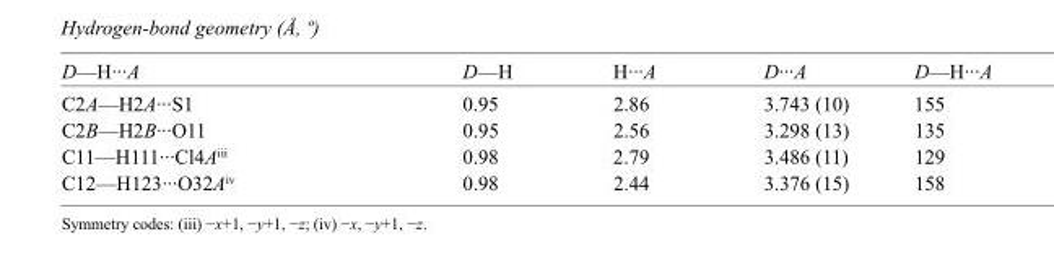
<table><tbody><tr><td>D—H···A</td><td>D—H</td><td>H···A</td><td>D···A</td><td>D—H···A</td></tr><tr><td>C2A—H2A···S1</td><td>0.95</td><td>2.86</td><td>3.743 (10)</td><td>155</td></tr><tr><td>C2B—H2B···O11</td><td>0.95</td><td>2.56</td><td>3.298 (13)</td><td>135</td></tr><tr><td>C11—H111···Cl4A<sup>iii</sup></td><td>0.98</td><td>2.79</td><td>3.486 (11)</td><td>129</td></tr><tr><td>C12—H123···O32A<sup>iv</sup></td><td>0.98</td><td>2.44</td><td>3.376 (15)</td><td>158</td></tr></tbody></table>